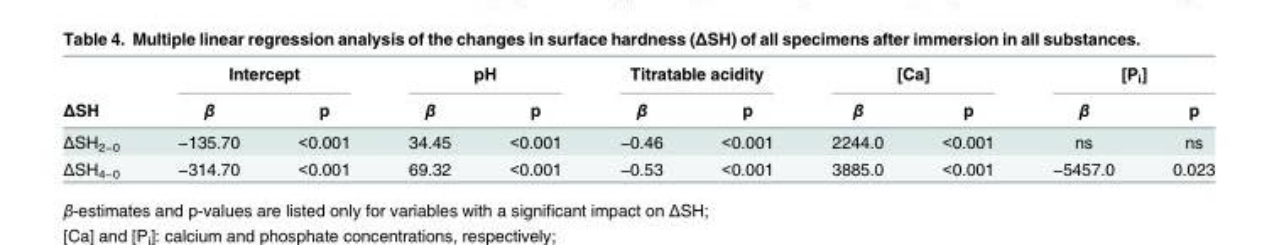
<table><thead><tr><td rowspan="2">ΔSH</td><td colspan="2">Intercept</td><td colspan="2">pH</td><td colspan="2">Titratable acidity</td><td colspan="2">[Ca]</td><td colspan="2">[P<sub>i</sub>]</td></tr><tr><td>β</td><td>p</td><td>β</td><td>p</td><td>β</td><td>p</td><td>β</td><td>p</td><td>β</td><td>p</td></tr></thead><tbody><tr><td>ΔSH<sub>2−0</sub></td><td>−135.70</td><td>&lt;0.001</td><td>34.45</td><td>&lt;0.001</td><td>−0.46</td><td>&lt;0.001</td><td>2244.0</td><td>&lt;0.001</td><td>ns</td><td>ns</td></tr><tr><td>ΔSH<sub>4−0</sub></td><td>−314.70</td><td>&lt;0.001</td><td>69.32</td><td>&lt;0.001</td><td>−0.53</td><td>&lt;0.001</td><td>3885.0</td><td>&lt;0.001</td><td>−5457.0</td><td>0.023</td></tr></tbody></table>